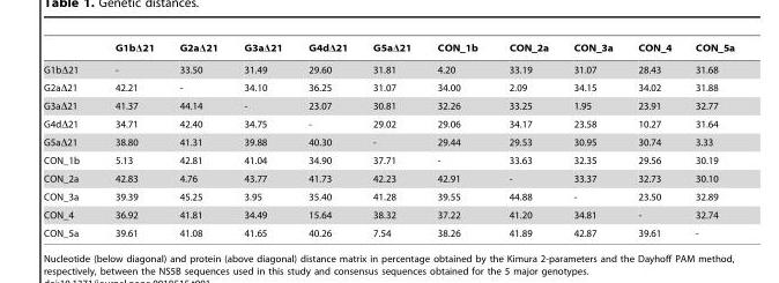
<table><thead><tr><td></td><td>G1bΔ21</td><td>G2aΔ21</td><td>G3aΔ21</td><td>G4dΔ21</td><td>G5aΔ21</td><td>CON__1b</td><td>CON__2a</td><td>CON__3a</td><td>CON__4</td><td>CON__5a</td></tr></thead><tbody><tr><td>G1bΔ21</td><td>-</td><td>33.50</td><td>31.49</td><td>29.60</td><td>31.81</td><td>4.20</td><td>33.19</td><td>31.07</td><td>28.43</td><td>31.68</td></tr><tr><td>G2aΔ21</td><td>42.21</td><td>-</td><td>34.10</td><td>36.25</td><td>31.07</td><td>34.00</td><td>2.09</td><td>34.15</td><td>34.02</td><td>31.88</td></tr><tr><td>G3aΔ21</td><td>41.37</td><td>44.14</td><td>-</td><td>23.07</td><td>30.81</td><td>32.26</td><td>33.25</td><td>1.95</td><td>23.91</td><td>32.77</td></tr><tr><td>G4dΔ21</td><td>34.71</td><td>42.40</td><td>34.75</td><td>-</td><td>29.02</td><td>29.06</td><td>34.17</td><td>23.58</td><td>10.27</td><td>31.64</td></tr><tr><td>G5aΔ21</td><td>38.80</td><td>41.31</td><td>39.88</td><td>40.30</td><td>-</td><td>29.44</td><td>29.53</td><td>30.95</td><td>30.74</td><td>3.33</td></tr><tr><td>CON_1b</td><td>5.13</td><td>42.81</td><td>41.04</td><td>34.90</td><td>37.71</td><td>-</td><td>33.63</td><td>32.35</td><td>29.56</td><td>30.19</td></tr><tr><td>CON_2a</td><td>42.83</td><td>4.76</td><td>43.77</td><td>41.73</td><td>42.23</td><td>42.91</td><td>-</td><td>33.37</td><td>32.73</td><td>30.10</td></tr><tr><td>CON_3a</td><td>39.39</td><td>45.25</td><td>3.95</td><td>35.40</td><td>41.28</td><td>39.55</td><td>44.88</td><td>-</td><td>23.50</td><td>32.89</td></tr><tr><td>CON_4</td><td>36.92</td><td>41.81</td><td>34.49</td><td>15.64</td><td>38.32</td><td>37.22</td><td>41.20</td><td>34.81</td><td>-</td><td>32.74</td></tr><tr><td>CON_5a</td><td>39.61</td><td>41.08</td><td>41.65</td><td>40.26</td><td>7.54</td><td>38.26</td><td>41.89</td><td>42.87</td><td>39.61</td><td>-</td></tr></tbody></table>